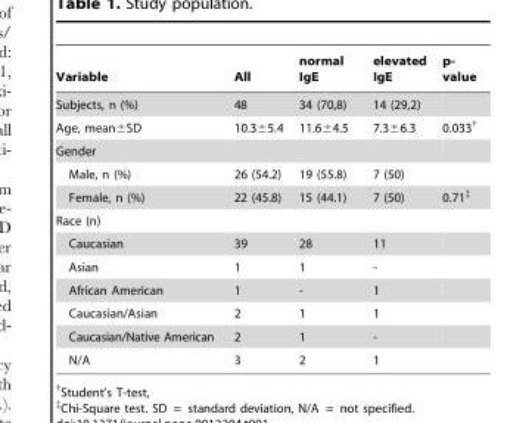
<table><thead><tr><td>Variable</td><td>All</td><td>normal IgE</td><td>elevated IgE</td><td>p- value</td></tr></thead><tbody><tr><td>Subjects, n (%)</td><td>48</td><td>34 (70,8)</td><td>14 (29,2)</td><td></td></tr><tr><td>Age, mean±SD</td><td>10.3±5.4</td><td>11.6±4.5</td><td>7.3±6.3</td><td>0.033†</td></tr><tr><td colspan="5">Gender</td></tr><tr><td>Male, n (%)</td><td>26 (54.2)</td><td>19 (55.8)</td><td>7 (50)</td><td></td></tr><tr><td>Female, n (%)</td><td>22 (45.8)</td><td>15 (44.1)</td><td>7 (50)</td><td>0.71‡</td></tr><tr><td colspan="5">Race (n)</td></tr><tr><td>Caucasian</td><td>39</td><td>28</td><td>11</td><td></td></tr><tr><td>Asian</td><td>1</td><td>1</td><td>-</td><td></td></tr><tr><td>African American</td><td>1</td><td>-</td><td>1</td><td></td></tr><tr><td>Caucasian/Asian</td><td>2</td><td>1</td><td>1</td><td></td></tr><tr><td>Caucasian/Native American</td><td>2</td><td>1</td><td>-</td><td></td></tr><tr><td>N/A</td><td>3</td><td>2</td><td>1</td><td></td></tr></tbody></table>